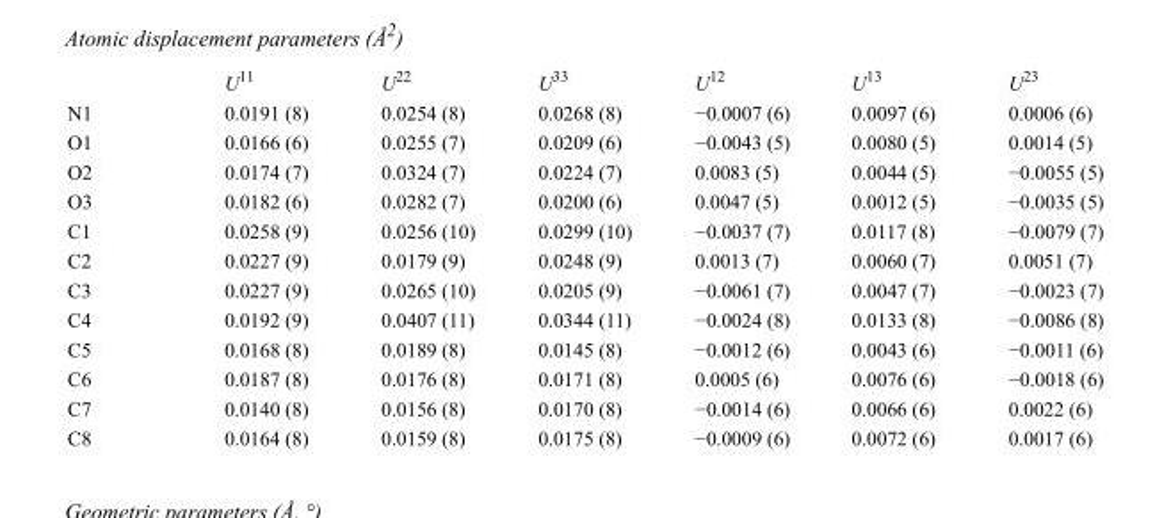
<table><thead><tr><td></td><td>U<sup>11</sup></td><td>U<sup>22</sup></td><td>U<sup>33</sup></td><td>U<sup>12</sup></td><td>U<sup>13</sup></td><td>U<sup>23</sup></td></tr></thead><tbody><tr><td>N1</td><td>0.0191 (8)</td><td>0.0254 (8)</td><td>0.0268 (8)</td><td>−0.0007 (6)</td><td>0.0097 (6)</td><td>0.0006 (6)</td></tr><tr><td>O1</td><td>0.0166 (6)</td><td>0.0255 (7)</td><td>0.0209 (6)</td><td>−0.0043 (5)</td><td>0.0080 (5)</td><td>0.0014 (5)</td></tr><tr><td>O2</td><td>0.0174 (7)</td><td>0.0324 (7)</td><td>0.0224 (7)</td><td>0.0083 (5)</td><td>0.0044 (5)</td><td>−0.0055 (5)</td></tr><tr><td>O3</td><td>0.0182 (6)</td><td>0.0282 (7)</td><td>0.0200 (6)</td><td>0.0047 (5)</td><td>0.0012 (5)</td><td>−0.0035 (5)</td></tr><tr><td>C1</td><td>0.0258 (9)</td><td>0.0256 (10)</td><td>0.0299 (10)</td><td>−0.0037 (7)</td><td>0.0117 (8)</td><td>−0.0079 (7)</td></tr><tr><td>C2</td><td>0.0227 (9)</td><td>0.0179 (9)</td><td>0.0248 (9)</td><td>0.0013 (7)</td><td>0.0060 (7)</td><td>0.0051 (7)</td></tr><tr><td>C3</td><td>0.0227 (9)</td><td>0.0265 (10)</td><td>0.0205 (9)</td><td>−0.0061 (7)</td><td>0.0047 (7)</td><td>−0.0023 (7)</td></tr><tr><td>C4</td><td>0.0192 (9)</td><td>0.0407 (11)</td><td>0.0344 (11)</td><td>−0.0024 (8)</td><td>0.0133 (8)</td><td>−0.0086 (8)</td></tr><tr><td>C5</td><td>0.0168 (8)</td><td>0.0189 (8)</td><td>0.0145 (8)</td><td>−0.0012 (6)</td><td>0.0043 (6)</td><td>−0.0011 (6)</td></tr><tr><td>C6</td><td>0.0187 (8)</td><td>0.0176 (8)</td><td>0.0171 (8)</td><td>0.0005 (6)</td><td>0.0076 (6)</td><td>−0.0018 (6)</td></tr><tr><td>C7</td><td>0.0140 (8)</td><td>0.0156 (8)</td><td>0.0170 (8)</td><td>−0.0014 (6)</td><td>0.0066 (6)</td><td>0.0022 (6)</td></tr><tr><td>C8</td><td>0.0164 (8)</td><td>0.0159 (8)</td><td>0.0175 (8)</td><td>−0.0009 (6)</td><td>0.0072 (6)</td><td>0.0017 (6)</td></tr></tbody></table>